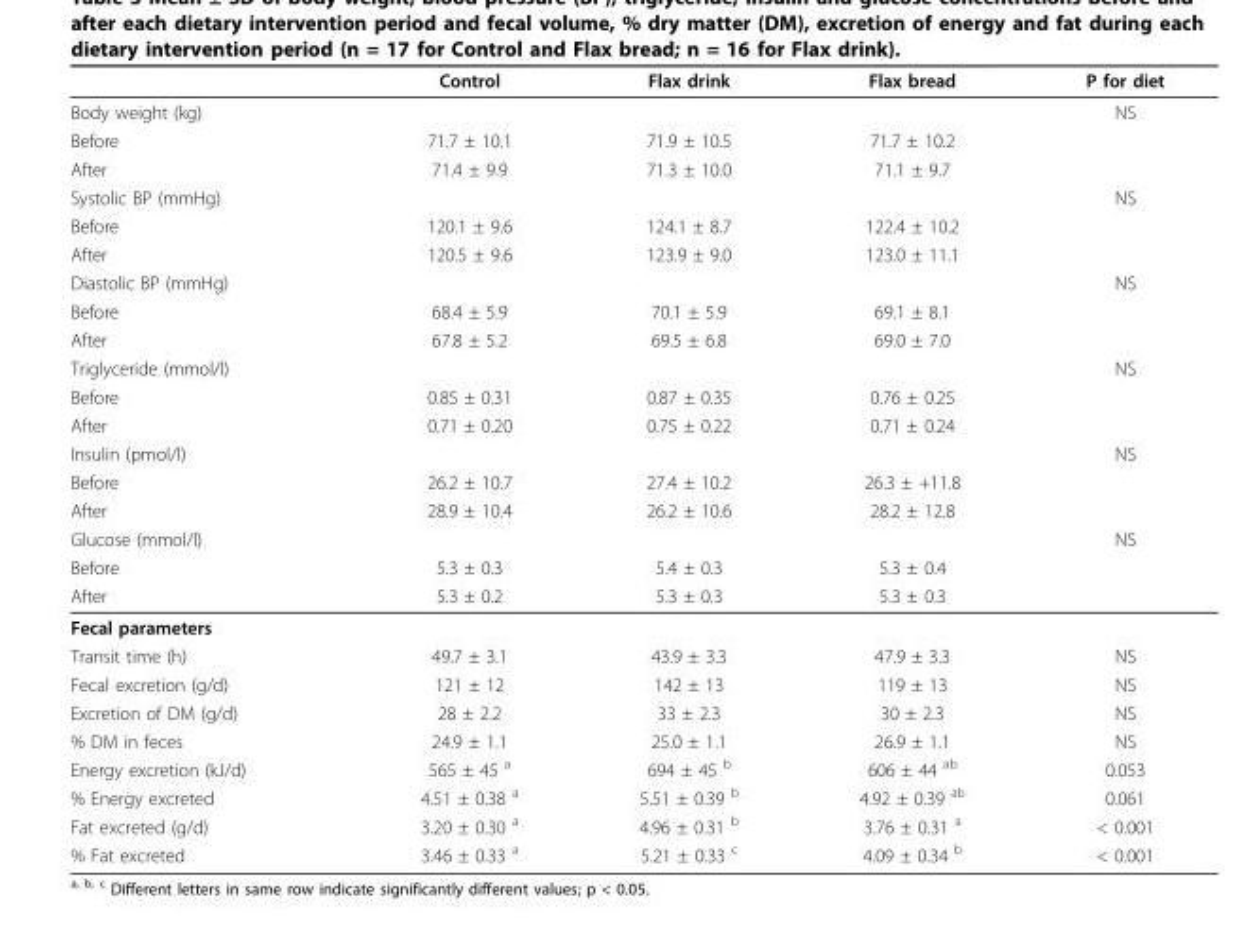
<table><thead><tr><td></td><td>Control</td><td>Flax drink</td><td>Flax bread</td><td>P for diet</td></tr></thead><tbody><tr><td>Body weight (kg)</td><td></td><td></td><td></td><td>NS</td></tr><tr><td>Before</td><td>71.7 ± 10.1</td><td>71.9 ± 10.5</td><td>71.7 ± 10.2</td><td></td></tr><tr><td>After</td><td>71.4 ± 9.9</td><td>71.3 ± 10.0</td><td>71.1 ± 9.7</td><td></td></tr><tr><td>Systolic BP (mmHg)</td><td></td><td></td><td></td><td>NS</td></tr><tr><td>Before</td><td>120.1 ± 9.6</td><td>124.1 ± 8.7</td><td>122.4 ± 10.2</td><td></td></tr><tr><td>After</td><td>120.5 ± 9.6</td><td>123.9 ± 9.0</td><td>123.0 ± 11.1</td><td></td></tr><tr><td>Diastolic BP (mmHg)</td><td></td><td></td><td></td><td>NS</td></tr><tr><td>Before</td><td>68.4 ± 5.9</td><td>70.1 ± 5.9</td><td>69.1 ± 8.1</td><td></td></tr><tr><td>After</td><td>67.8 ± 5.2</td><td>69.5 ± 6.8</td><td>69.0 ± 7.0</td><td></td></tr><tr><td>Triglyceride (mmol/l)</td><td></td><td></td><td></td><td>NS</td></tr><tr><td>Before</td><td>0.85 ± 0.31</td><td>0.87 ± 0.35</td><td>0.76 ± 0.25</td><td></td></tr><tr><td>After</td><td>0.71 ± 0.20</td><td>0.75 ± 0.22</td><td>0.71 ± 0.24</td><td></td></tr><tr><td>Insulin (pmol/l)</td><td></td><td></td><td></td><td>NS</td></tr><tr><td>Before</td><td>26.2 ± 10.7</td><td>27.4 ± 10.2</td><td>26.3 ± +11.8</td><td></td></tr><tr><td>After</td><td>28.9 ± 10.4</td><td>26.2 ± 10.6</td><td>28.2 ± 12.8</td><td></td></tr><tr><td>Glucose (mmol/l)</td><td></td><td></td><td></td><td>NS</td></tr><tr><td>Before</td><td>5.3 ± 0.3</td><td>5.4 ± 0.3</td><td>5.3 ± 0.4</td><td></td></tr><tr><td>After</td><td>5.3 ± 0.2</td><td>5.3 ± 0.3</td><td>5.3 ± 0.3</td><td></td></tr><tr><td colspan="5">Fecal parameters</td></tr><tr><td>Transit time (h)</td><td>49.7 ± 3.1</td><td>43.9 ± 3.3</td><td>47.9 ± 3.3</td><td>NS</td></tr><tr><td>Fecal excretion (g/d)</td><td>121 ± 12</td><td>142 ± 13</td><td>119 ± 13</td><td>NS</td></tr><tr><td>Excretion of DM (g/d)</td><td>28 ± 2.2</td><td>33 ± 2.3</td><td>30 ± 2.3</td><td>NS</td></tr><tr><td>% DM in feces</td><td>24.9 ± 1.1</td><td>25.0 ± 1.1</td><td>26.9 ± 1.1</td><td>NS</td></tr><tr><td>Energy excretion (kJ/d)</td><td>565 ± 45 <sup>a</sup></td><td>694 ± 45 <sup>b</sup></td><td>606 ± 44 <sup>ab</sup></td><td>0.053</td></tr><tr><td>% Energy excreted</td><td>4.51 ± 0.38 <sup>a</sup></td><td>5.51 ± 0.39 <sup>b</sup></td><td>4.92 ± 0.39 <sup>ab</sup></td><td>0.061</td></tr><tr><td>Fat excreted (g/d)</td><td>3.20 ± 0.30 <sup>a</sup></td><td>4.96 ± 0.31 <sup>b</sup></td><td>3.76 ± 0.31 <sup>a</sup></td><td>&lt; 0.001</td></tr><tr><td>% Fat excreted</td><td>3.46 ± 0.33 <sup>a</sup></td><td>5.21 ± 0.33 <sup>c</sup></td><td>4.09 ± 0.34 <sup>b</sup></td><td>&lt; 0.001</td></tr></tbody></table>